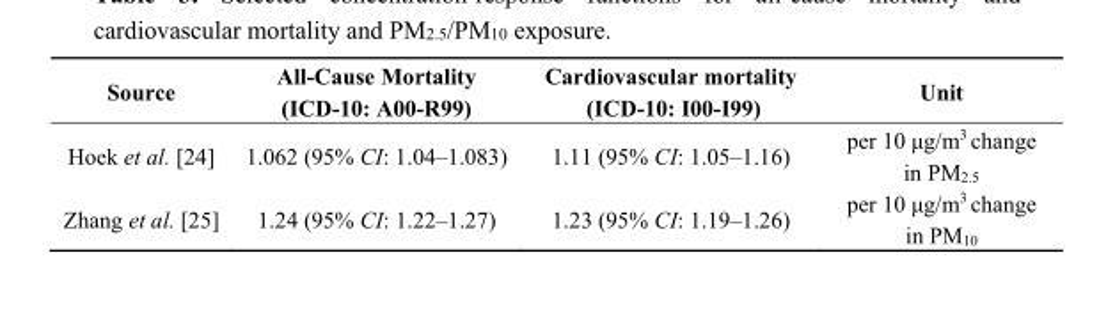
<table><thead><tr><td>Source</td><td>All-Cause Mortality (ICD-10: A00-R99)</td><td>Cardiovascular mortality (ICD-10: I00-I99)</td><td>Unit</td></tr></thead><tbody><tr><td>Hoek et al. [24]</td><td>1.062 (95% CI: 1.04–1.083)</td><td>1.11 (95% CI: 1.05–1.16)</td><td>per 10 μg/m<sup>3</sup> change in PM<sub>2.5</sub></td></tr><tr><td>Zhang et al. [25]</td><td>1.24 (95% CI: 1.22–1.27)</td><td>1.23 (95% CI: 1.19–1.26)</td><td>per 10 μg/m<sup>3</sup> change in PM<sub>10</sub></td></tr></tbody></table>